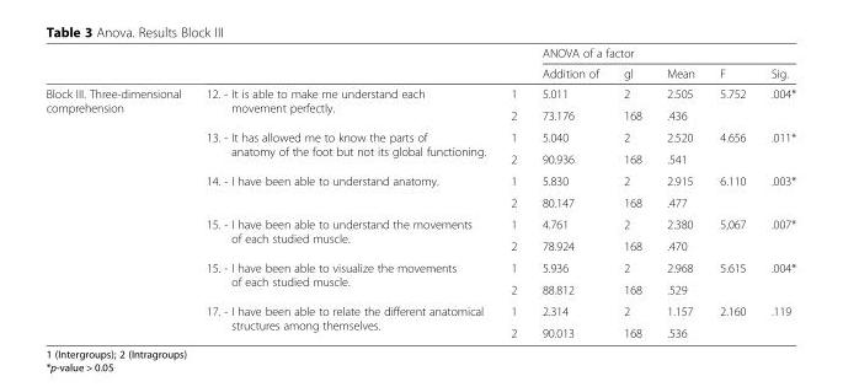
<table><thead><tr><td rowspan="2"></td><td rowspan="2"></td><td rowspan="2"></td><td colspan="5">ANOVA of a factor</td></tr><tr><td>Addition of</td><td>gl</td><td>Mean</td><td>F</td><td>Sig.</td></tr></thead><tbody><tr><td rowspan="12">Block III. Three-dimensional comprehension</td><td rowspan="2">12. - It is able to make me understand each movement perfectly.</td><td>1</td><td>5.011</td><td>2</td><td>2.505</td><td>5.752</td><td>.004*</td></tr><tr><td>2</td><td>73.176</td><td>168</td><td>.436</td><td></td><td></td></tr><tr><td rowspan="2">13. - It has allowed me to know the parts of anatomy of the foot but not its global functioning.</td><td>1</td><td>5.040</td><td>2</td><td>2.520</td><td>4.656</td><td>.011*</td></tr><tr><td>2</td><td>90.936</td><td>168</td><td>.541</td><td></td><td></td></tr><tr><td rowspan="2">14. - I have been able to understand anatomy.</td><td>1</td><td>5.830</td><td>2</td><td>2.915</td><td>6.110</td><td>.003*</td></tr><tr><td>2</td><td>80.147</td><td>168</td><td>.477</td><td></td><td></td></tr><tr><td rowspan="2">15. - I have been able to understand the movements of each studied muscle.</td><td>1</td><td>4.761</td><td>2</td><td>2.380</td><td>5,067</td><td>.007*</td></tr><tr><td>2</td><td>78.924</td><td>168</td><td>.470</td><td></td><td></td></tr><tr><td rowspan="2">15. - I have been able to visualize the movements of each studied muscle.</td><td>1</td><td>5.936</td><td>2</td><td>2.968</td><td>5.615</td><td>.004*</td></tr><tr><td>2</td><td>88.812</td><td>168</td><td>.529</td><td></td><td></td></tr><tr><td rowspan="2">17. - I have been able to relate the different anatomical structures among themselves.</td><td>1</td><td>2.314</td><td>2</td><td>1.157</td><td>2.160</td><td>.119</td></tr><tr><td>2</td><td>90.013</td><td>168</td><td>.536</td><td></td><td></td></tr></tbody></table>